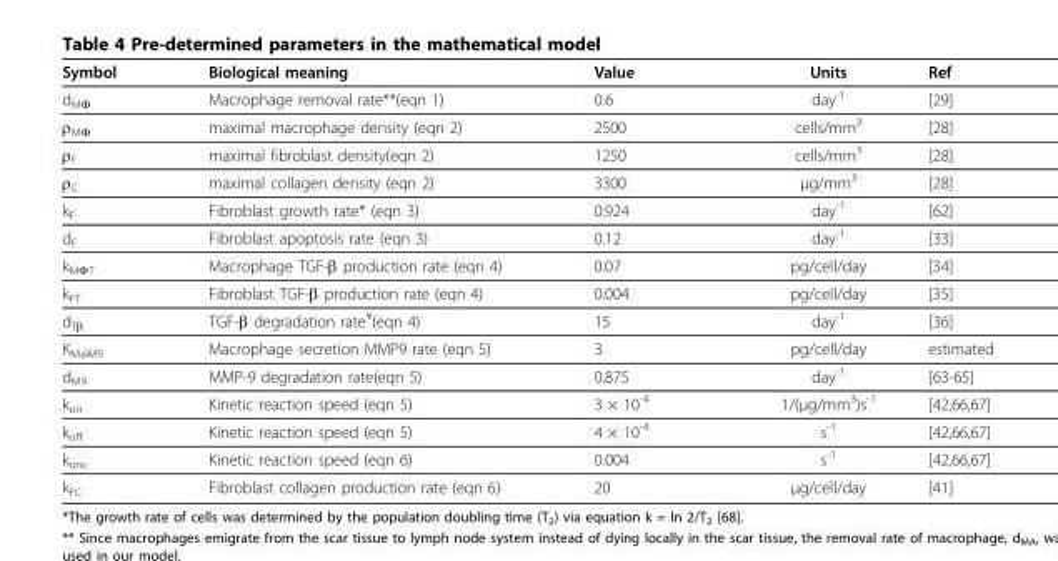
<table><thead><tr><td>Symbol</td><td>Biological meaning</td><td>Value</td><td>Units</td><td>Ref</td></tr></thead><tbody><tr><td>d<sub>MΦ</sub></td><td>Macrophage removal rate**(eqn 1)</td><td>0.6</td><td>day<sup>-1</sup></td><td>[29]</td></tr><tr><td>ρ<sub>MΦ</sub></td><td>maximal macrophage density (eqn 2)</td><td>2500</td><td>cells/mm<sup>3</sup></td><td>[28]</td></tr><tr><td>ρ<sub>F</sub></td><td>maximal fibroblast density(eqn 2)</td><td>1250</td><td>cells/mm<sup>3</sup></td><td>[28]</td></tr><tr><td>ρ<sub>C</sub></td><td>maximal collagen density (eqn 2)</td><td>3300</td><td>μg/mm<sup>3</sup></td><td>[28]</td></tr><tr><td>k<sub>F</sub></td><td>Fibroblast growth rate* (eqn 3)</td><td>0.924</td><td>day<sup>-1</sup></td><td>[62]</td></tr><tr><td>d<sub>F</sub></td><td>Fibroblast apoptosis rate (eqn 3)</td><td>0.12</td><td>day<sup>-1</sup></td><td>[33]</td></tr><tr><td>k<sub>MΦT</sub></td><td>Macrophage TGF-β production rate (eqn 4)</td><td>0.07</td><td>pg/cell/day</td><td>[34]</td></tr><tr><td>k<sub>FT</sub></td><td>Fibroblast TGF-β production rate (eqn 4)</td><td>0.004</td><td>pg/cell/day</td><td>[35]</td></tr><tr><td>d<sub>Tβ</sub></td><td>TGF-β degradation rate<sup>¥</sup>(eqn 4)</td><td>15</td><td>day<sup>-1</sup></td><td>[36]</td></tr><tr><td>K<sub>MφM9</sub></td><td>Macrophage secretion MMP9 rate (eqn 5)</td><td>3</td><td>pg/cell/day</td><td>estimated</td></tr><tr><td>d<sub>M9</sub></td><td>MMP-9 degradation rate(eqn 5)</td><td>0.875</td><td>day<sup>-1</sup></td><td>[63-65]</td></tr><tr><td>k<sub>on</sub></td><td>Kinetic reaction speed (eqn 5)</td><td>3 × 10<sup>-4</sup></td><td>1/(μg/mm<sup>3</sup>)s<sup>-1</sup></td><td>[42,66,67]</td></tr><tr><td>k<sub>off</sub></td><td>Kinetic reaction speed (eqn 5)</td><td>4 × 10<sup>-4</sup></td><td>s<sup>-1</sup></td><td>[42,66,67]</td></tr><tr><td>k<sub>onc</sub></td><td>Kinetic reaction speed (eqn 6)</td><td>0.004</td><td>s<sup>-1</sup></td><td>[42,66,67]</td></tr><tr><td>k<sub>FC</sub></td><td>Fibroblast collagen production rate (eqn 6)</td><td>20</td><td>μg/cell/day</td><td>[41]</td></tr></tbody></table>